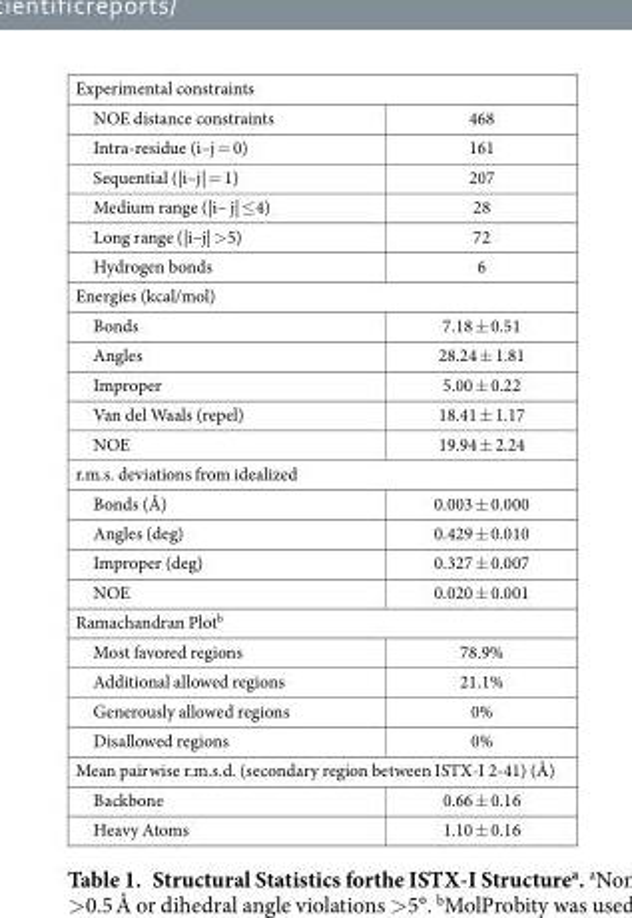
<table><tbody><tr><td colspan="2">Experimental constraints</td></tr><tr><td>NOE distance constraints</td><td>468</td></tr><tr><td>Intra-residue (i–j = 0)</td><td>161</td></tr><tr><td>Sequential (|i–j| = 1)</td><td>207</td></tr><tr><td>Medium range (|i– j| ≤4)</td><td>28</td></tr><tr><td>Long range (|i–j| &gt;5)</td><td>72</td></tr><tr><td>Hydrogen bonds</td><td>6</td></tr><tr><td colspan="2">Energies (kcal/mol)</td></tr><tr><td>Bonds</td><td>7.18 ± 0.51</td></tr><tr><td>Angles</td><td>28.24 ± 1.81</td></tr><tr><td>Improper</td><td>5.00 ± 0.22</td></tr><tr><td>Van del Waals (repel)</td><td>18.41 ± 1.17</td></tr><tr><td>NOE</td><td>19.94 ± 2.24</td></tr><tr><td colspan="2">r.m.s. deviations from idealized</td></tr><tr><td>Bonds (Å)</td><td>0.003 ± 0.000</td></tr><tr><td>Angles (deg)</td><td>0.429 ± 0.010</td></tr><tr><td>Improper (deg)</td><td>0.327 ± 0.007</td></tr><tr><td>NOE</td><td>0.020 ± 0.001</td></tr><tr><td colspan="2">Ramachandran Plot<sup>b</sup></td></tr><tr><td>Most favored regions</td><td>78.9%</td></tr><tr><td>Additional allowed regions</td><td>21.1%</td></tr><tr><td>Generously allowed regions</td><td>0%</td></tr><tr><td>Disallowed regions</td><td>0%</td></tr><tr><td colspan="2">Mean pairwise r.m.s.d. (secondary region between ISTX-I 2-41) (Å)</td></tr><tr><td>Backbone</td><td>0.66 ± 0.16</td></tr><tr><td>Heavy Atoms</td><td>1.10 ± 0.16</td></tr></tbody></table>